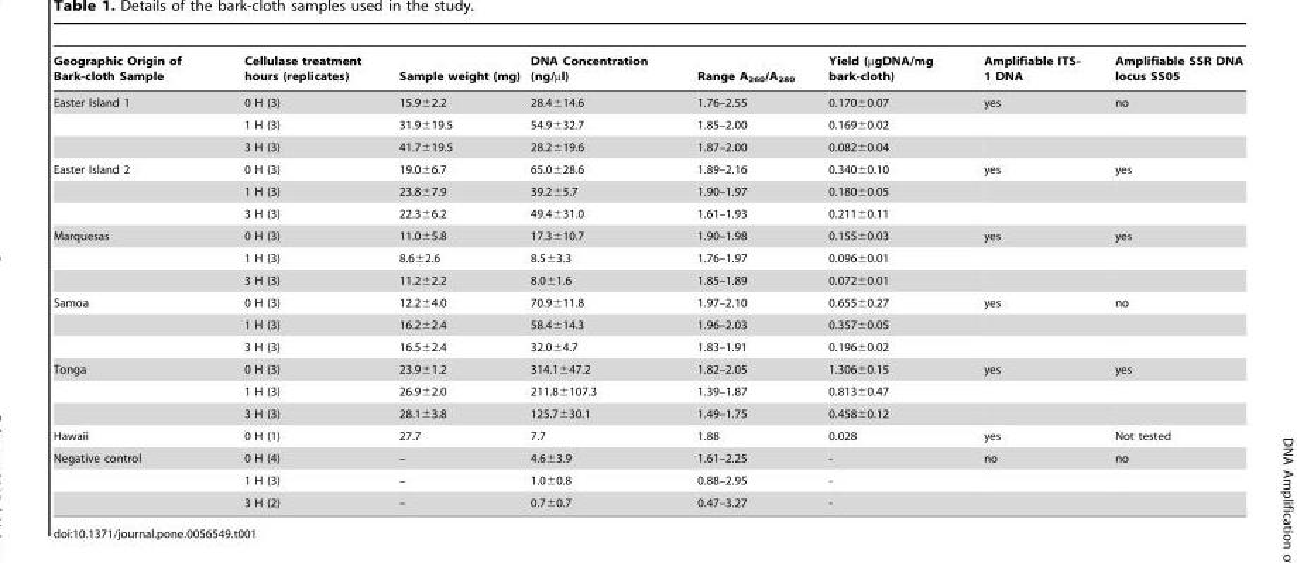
<table><thead><tr><td>Geographic Origin of Bark-cloth Sample</td><td>Cellulase treatment hours (replicates)</td><td>Sample weight (mg)</td><td>DNA Concentration (ng/µl)</td><td>Range A<sub>260</sub>/A<sub>280</sub></td><td>Yield (µgDNA/mg bark-cloth)</td><td>Amplifiable ITS- 1 DNA</td><td>Amplifiable SSR DNA locus SS05</td></tr></thead><tbody><tr><td rowspan="3">Easter Island 1</td><td>0 H (3)</td><td>15.9±2.2</td><td>28.4±14.6</td><td>1.76–2.55</td><td>0.170±0.07</td><td>yes</td><td>no</td></tr><tr><td>1 H (3)</td><td>31.9±19.5</td><td>54.9±32.7</td><td>1.85–2.00</td><td>0.169±0.02</td><td></td><td></td></tr><tr><td>3 H (3)</td><td>41.7±19.5</td><td>28.2±19.6</td><td>1.87–2.00</td><td>0.082±0.04</td><td></td><td></td></tr><tr><td rowspan="3">Easter Island 2</td><td>0 H (3)</td><td>19.0±6.7</td><td>65.0±28.6</td><td>1.89–2.16</td><td>0.340±0.10</td><td>yes</td><td>yes</td></tr><tr><td>1 H (3)</td><td>23.8±7.9</td><td>39.2±5.7</td><td>1.90–1.97</td><td>0.180±0.05</td><td></td><td></td></tr><tr><td>3 H (3)</td><td>22.3±6.2</td><td>49.4±31.0</td><td>1.61–1.93</td><td>0.211±0.11</td><td></td><td></td></tr><tr><td rowspan="3">Marquesas</td><td>0 H (3)</td><td>11.0±5.8</td><td>17.3±10.7</td><td>1.90–1.98</td><td>0.155±0.03</td><td>yes</td><td>yes</td></tr><tr><td>1 H (3)</td><td>8.6±2.6</td><td>8.5±3.3</td><td>1.76–1.97</td><td>0.096±0.01</td><td></td><td></td></tr><tr><td>3 H (3)</td><td>11.2±2.2</td><td>8.0±1.6</td><td>1.85–1.89</td><td>0.072±0.01</td><td></td><td></td></tr><tr><td rowspan="3">Samoa</td><td>0 H (3)</td><td>12.2±4.0</td><td>70.9±11.8</td><td>1.97–2.10</td><td>0.655±0.27</td><td>yes</td><td>no</td></tr><tr><td>1 H (3)</td><td>16.2±2.4</td><td>58.4±14.3</td><td>1.96–2.03</td><td>0.357±0.05</td><td></td><td></td></tr><tr><td>3 H (3)</td><td>16.5±2.4</td><td>32.0±4.7</td><td>1.83–1.91</td><td>0.196±0.02</td><td></td><td></td></tr><tr><td rowspan="3">Tonga</td><td>0 H (3)</td><td>23.9±1.2</td><td>314.1±47.2</td><td>1.82–2.05</td><td>1.306±0.15</td><td>yes</td><td>yes</td></tr><tr><td>1 H (3)</td><td>26.9±2.0</td><td>211.8±107.3</td><td>1.39–1.87</td><td>0.813±0.47</td><td></td><td></td></tr><tr><td>3 H (3)</td><td>28.1±3.8</td><td>125.7±30.1</td><td>1.49–1.75</td><td>0.458±0.12</td><td></td><td></td></tr><tr><td>Hawaii</td><td>0 H (1)</td><td>27.7</td><td>7.7</td><td>1.88</td><td>0.028</td><td>yes</td><td>Not tested</td></tr><tr><td rowspan="3">Negative control</td><td>0 H (4)</td><td>–</td><td>4.6±3.9</td><td>1.61–2.25</td><td>-</td><td>no</td><td>no</td></tr><tr><td>1 H (3)</td><td>–</td><td>1.0±0.8</td><td>0.88–2.95</td><td>-</td><td></td><td></td></tr><tr><td>3 H (2)</td><td>–</td><td>0.7±0.7</td><td>0.47–3.27</td><td>-</td><td></td><td></td></tr></tbody></table>